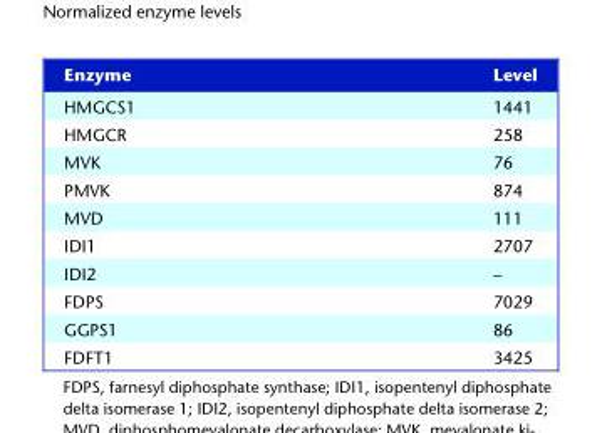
<table><thead><tr><td>Enzyme</td><td>Level</td></tr></thead><tbody><tr><td>HMGCS1</td><td>1441</td></tr><tr><td>HMGCR</td><td>258</td></tr><tr><td>MVK</td><td>76</td></tr><tr><td>PMVK</td><td>874</td></tr><tr><td>MVD</td><td>111</td></tr><tr><td>IDI1</td><td>2707</td></tr><tr><td>IDI2</td><td>–</td></tr><tr><td>FDPS</td><td>7029</td></tr><tr><td>GGPS1</td><td>86</td></tr><tr><td>FDFT1</td><td>3425</td></tr></tbody></table>